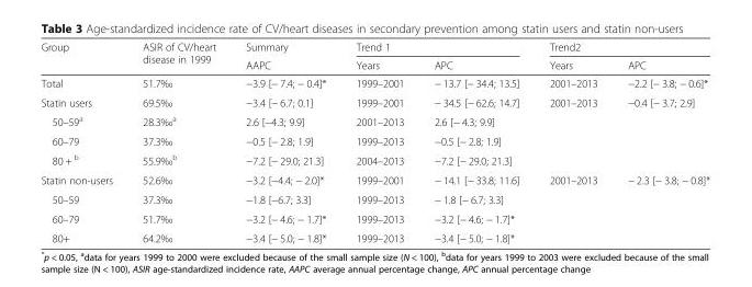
<table><thead><tr><td rowspan="2">Group</td><td rowspan="2">ASIR of CV/heart disease in 1999</td><td rowspan="2">Summary AAPC</td><td colspan="2">Trend 1</td><td colspan="2">Trend2</td></tr><tr><td>Years</td><td>APC</td><td>Years</td><td>APC</td></tr></thead><tbody><tr><td>Total</td><td>51.7‰</td><td>−3.9 [− 7.4; − 0.4]*</td><td>1999–2001</td><td>− 13.7 [− 34.4; 13.5]</td><td>2001–2013</td><td>−2.2 [− 3.8; − 0.6]*</td></tr><tr><td>Statin users</td><td>69.5‰</td><td>−3.4 [− 6.7; 0.1]</td><td>1999–2001</td><td>− 34.5 [− 62.6; 14.7]</td><td>2001–2013</td><td>−0.4 [− 3.7; 2.9]</td></tr><tr><td>50–59<sup>a</sup></td><td>28.3‰<sup>a</sup></td><td>2.6 [−4.3; 9.9]</td><td>2001–2013</td><td>2.6 [− 4.3; 9.9]</td><td></td><td></td></tr><tr><td>60–79</td><td>37.3‰</td><td>−0.5 [− 2.8; 1.9]</td><td>1999–2013</td><td>−0.5 [− 2.8; 1.9]</td><td></td><td></td></tr><tr><td>80 + <sup>b</sup></td><td>55.9‰<sup>b</sup></td><td>−7.2 [− 29.0; 21.3]</td><td>2004–2013</td><td>−7.2 [− 29.0; 21.3]</td><td></td><td></td></tr><tr><td>Statin non-users</td><td>52.6‰</td><td>−3.2 [−4.4; − 2.0]*</td><td>1999–2001</td><td>− 14.1 [− 33.8; 11.6]</td><td>2001–2013</td><td>− 2.3 [− 3.8; − 0.8]*</td></tr><tr><td>50–59</td><td>37.3‰</td><td>−1.8 [−6.7; 3.3]</td><td>1999–2013</td><td>− 1.8 [− 6.7; 3.3]</td><td></td><td></td></tr><tr><td>60–79</td><td>51.7‰</td><td>−3.2 [− 4.6; − 1.7]*</td><td>1999–2013</td><td>−3.2 [− 4.6; − 1.7]*</td><td></td><td></td></tr><tr><td>80+</td><td>64.2‰</td><td>−3.4 [− 5.0; − 1.8]*</td><td>1999–2013</td><td>−3.4 [− 5.0; − 1.8]*</td><td></td><td></td></tr></tbody></table>